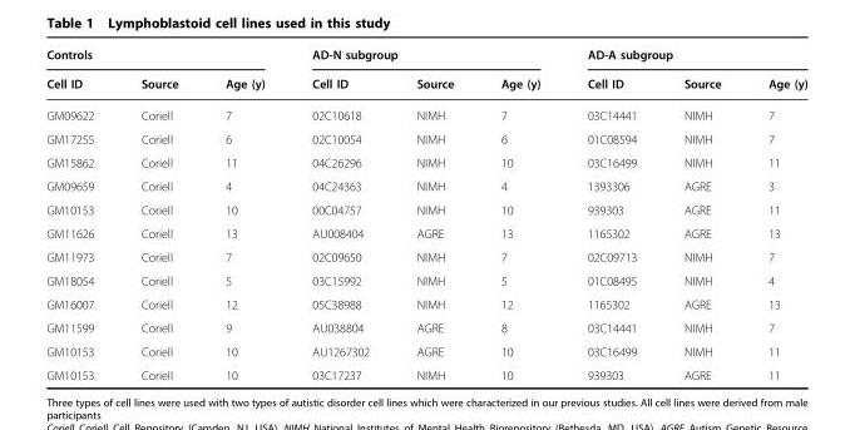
<table><thead><tr><td colspan="3">Controls</td><td colspan="3">AD-N subgroup</td><td colspan="3">AD-A subgroup</td></tr><tr><td>Cell ID</td><td>Source</td><td>Age (y)</td><td>Cell ID</td><td>Source</td><td>Age (y)</td><td>Cell ID</td><td>Source</td><td>Age (y)</td></tr></thead><tbody><tr><td>GM09622</td><td>Coriell</td><td>7</td><td>02C10618</td><td>NIMH</td><td>7</td><td>03C14441</td><td>NIMH</td><td>7</td></tr><tr><td>GM17255</td><td>Coriell</td><td>6</td><td>02C10054</td><td>NIMH</td><td>6</td><td>01C08594</td><td>NIMH</td><td>7</td></tr><tr><td>GM15862</td><td>Coriell</td><td>11</td><td>04C26296</td><td>NIMH</td><td>10</td><td>03C16499</td><td>NIMH</td><td>11</td></tr><tr><td>GM09659</td><td>Coriell</td><td>4</td><td>04C24363</td><td>NIMH</td><td>4</td><td>1393306</td><td>AGRE</td><td>3</td></tr><tr><td>GM10153</td><td>Coriell</td><td>10</td><td>00C04757</td><td>NIMH</td><td>10</td><td>939303</td><td>AGRE</td><td>11</td></tr><tr><td>GM11626</td><td>Coriell</td><td>13</td><td>AU008404</td><td>AGRE</td><td>13</td><td>1165302</td><td>AGRE</td><td>13</td></tr><tr><td>GM11973</td><td>Coriell</td><td>7</td><td>02C09650</td><td>NIMH</td><td>7</td><td>02C09713</td><td>NIMH</td><td>7</td></tr><tr><td>GM18054</td><td>Coriell</td><td>5</td><td>03C15992</td><td>NIMH</td><td>5</td><td>01C08495</td><td>NIMH</td><td>4</td></tr><tr><td>GM16007</td><td>Coriell</td><td>12</td><td>05C38988</td><td>NIMH</td><td>12</td><td>1165302</td><td>AGRE</td><td>13</td></tr><tr><td>GM11599</td><td>Coriell</td><td>9</td><td>AU038804</td><td>AGRE</td><td>8</td><td>03C14441</td><td>NIMH</td><td>7</td></tr><tr><td>GM10153</td><td>Coriell</td><td>10</td><td>AU1267302</td><td>AGRE</td><td>10</td><td>03C16499</td><td>NIMH</td><td>11</td></tr><tr><td>GM10153</td><td>Coriell</td><td>10</td><td>03C17237</td><td>NIMH</td><td>10</td><td>939303</td><td>AGRE</td><td>11</td></tr></tbody></table>